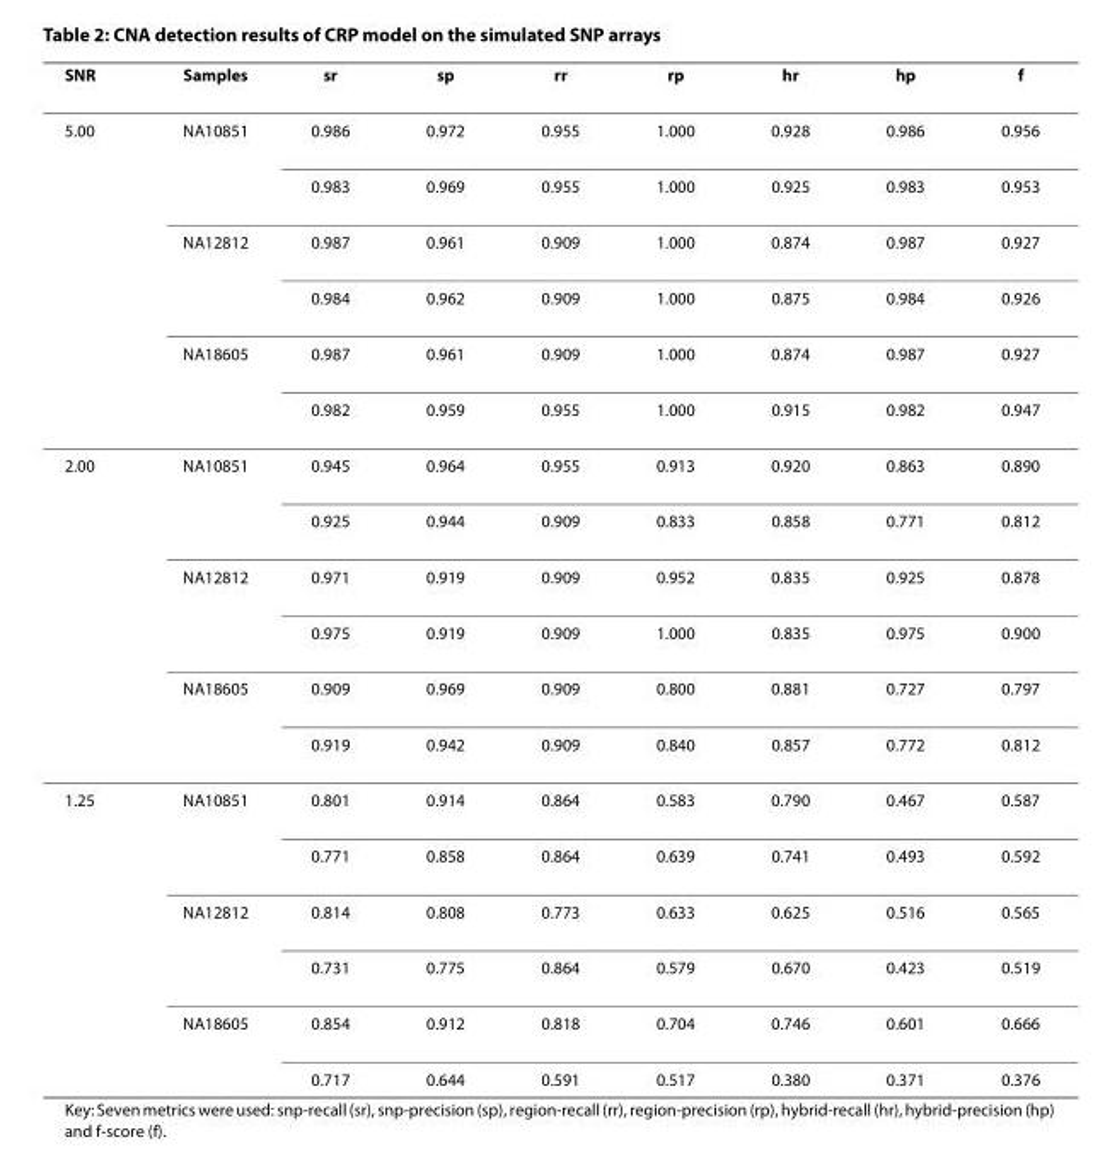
<table><thead><tr><td>SNR</td><td>Samples</td><td>sr</td><td>sp</td><td>rr</td><td>rp</td><td>hr</td><td>hp</td><td>f</td></tr></thead><tbody><tr><td rowspan="6">5.00</td><td>NA10851</td><td>0.986</td><td>0.972</td><td>0.955</td><td>1.000</td><td>0.928</td><td>0.986</td><td>0.956</td></tr><tr><td></td><td>0.983</td><td>0.969</td><td>0.955</td><td>1.000</td><td>0.925</td><td>0.983</td><td>0.953</td></tr><tr><td>NA12812</td><td>0.987</td><td>0.961</td><td>0.909</td><td>1.000</td><td>0.874</td><td>0.987</td><td>0.927</td></tr><tr><td></td><td>0.984</td><td>0.962</td><td>0.909</td><td>1.000</td><td>0.875</td><td>0.984</td><td>0.926</td></tr><tr><td>NA18605</td><td>0.987</td><td>0.961</td><td>0.909</td><td>1.000</td><td>0.874</td><td>0.987</td><td>0.927</td></tr><tr><td></td><td>0.982</td><td>0.959</td><td>0.955</td><td>1.000</td><td>0.915</td><td>0.982</td><td>0.947</td></tr><tr><td rowspan="6">2.00</td><td>NA10851</td><td>0.945</td><td>0.964</td><td>0.955</td><td>0.913</td><td>0.920</td><td>0.863</td><td>0.890</td></tr><tr><td></td><td>0.925</td><td>0.944</td><td>0.909</td><td>0.833</td><td>0.858</td><td>0.771</td><td>0.812</td></tr><tr><td>NA12812</td><td>0.971</td><td>0.919</td><td>0.909</td><td>0.952</td><td>0.835</td><td>0.925</td><td>0.878</td></tr><tr><td></td><td>0.975</td><td>0.919</td><td>0.909</td><td>1.000</td><td>0.835</td><td>0.975</td><td>0.900</td></tr><tr><td>NA18605</td><td>0.909</td><td>0.969</td><td>0.909</td><td>0.800</td><td>0.881</td><td>0.727</td><td>0.797</td></tr><tr><td></td><td>0.919</td><td>0.942</td><td>0.909</td><td>0.840</td><td>0.857</td><td>0.772</td><td>0.812</td></tr><tr><td rowspan="6">1.25</td><td>NA10851</td><td>0.801</td><td>0.914</td><td>0.864</td><td>0.583</td><td>0.790</td><td>0.467</td><td>0.587</td></tr><tr><td></td><td>0.771</td><td>0.858</td><td>0.864</td><td>0.639</td><td>0.741</td><td>0.493</td><td>0.592</td></tr><tr><td>NA12812</td><td>0.814</td><td>0.808</td><td>0.773</td><td>0.633</td><td>0.625</td><td>0.516</td><td>0.565</td></tr><tr><td></td><td>0.731</td><td>0.775</td><td>0.864</td><td>0.579</td><td>0.670</td><td>0.423</td><td>0.519</td></tr><tr><td>NA18605</td><td>0.854</td><td>0.912</td><td>0.818</td><td>0.704</td><td>0.746</td><td>0.601</td><td>0.666</td></tr><tr><td></td><td>0.717</td><td>0.644</td><td>0.591</td><td>0.517</td><td>0.380</td><td>0.371</td><td>0.376</td></tr></tbody></table>